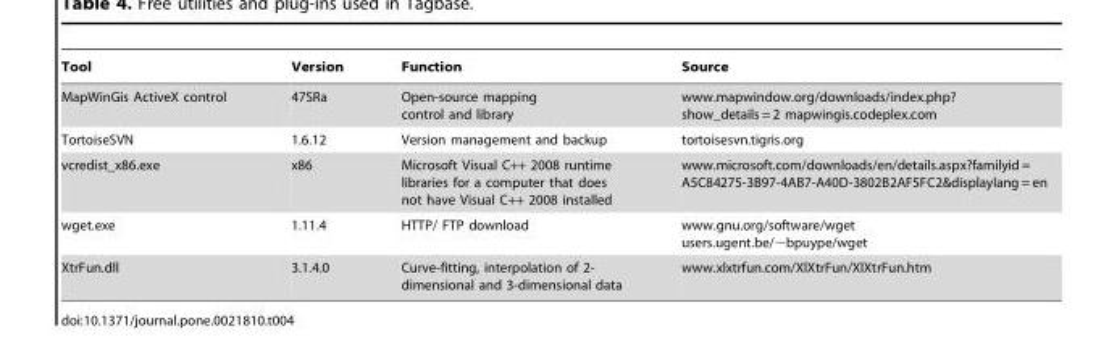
<table><thead><tr><td>Tool</td><td>Version</td><td>Function</td><td>Source</td></tr></thead><tbody><tr><td>MapWinGis ActiveX control</td><td>47SRa</td><td>Open-source mapping control and library</td><td>www.mapwindow.org/downloads/index.php? show_details = 2 mapwingis.codeplex.com</td></tr><tr><td>TortoiseSVN</td><td>1.6.12</td><td>Version management and backup</td><td>tortoisesvn.tigris.org</td></tr><tr><td>vcredist_x86.exe</td><td>x86</td><td>Microsoft Visual C++ 2008 runtime libraries for a computer that does not have Visual C++ 2008 installed</td><td>www.microsoft.com/downloads/en/details.aspx?familyid = A5C84275-3B97-4AB7-A40D-3802B2AF5FC2&amp;displaylang = en</td></tr><tr><td>wget.exe</td><td>1.11.4</td><td>HTTP/ FTP download</td><td>www.gnu.org/software/wget users.ugent.be/∼bpuype/wget</td></tr><tr><td>XtrFun.dll</td><td>3.1.4.0</td><td>Curve-fitting, interpolation of 2- dimensional and 3-dimensional data</td><td>www.xlxtrfun.com/XlXtrFun/XlXtrFun.htm</td></tr></tbody></table>